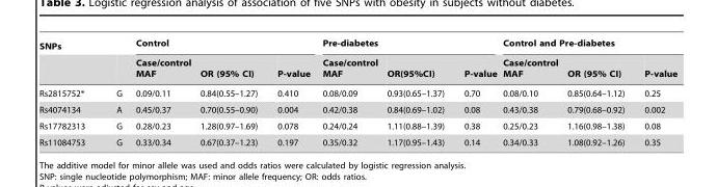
<table><thead><tr><td rowspan="2">SNPs</td><td rowspan="2"></td><td colspan="3">Control</td><td colspan="3">Pre-diabetes</td><td colspan="3">Control and Pre-diabetes</td></tr><tr><td>Case/control MAF</td><td>OR (95% CI)</td><td>P-value</td><td>Case/control MAF</td><td>OR(95%CI)</td><td>P-value</td><td>Case/control MAF</td><td>OR (95% CI)</td><td>P-value</td></tr></thead><tbody><tr><td>Rs2815752*</td><td>G</td><td>0.09/0.11</td><td>0.84(0.55–1.27)</td><td>0.410</td><td>0.08/0.09</td><td>0.93(0.65–1.37)</td><td>0.70</td><td>0.08/0.10</td><td>0.85(0.64–1.12)</td><td>0.25</td></tr><tr><td>Rs4074134</td><td>A</td><td>0.45/0.37</td><td>0.70(0.55–0.90)</td><td>0.004</td><td>0.42/0.38</td><td>0.84(0.69–1.02)</td><td>0.08</td><td>0.43/0.38</td><td>0.79(0.68–0.92)</td><td>0.002</td></tr><tr><td>Rs17782313</td><td>G</td><td>0.28/0.23</td><td>1.28(0.97–1.69)</td><td>0.078</td><td>0.24/0.24</td><td>1.11(0.88–1.39)</td><td>0.38</td><td>0.25/0.23</td><td>1.16(0.98–1.38)</td><td>0.08</td></tr><tr><td>Rs11084753</td><td>G</td><td>0.33/0.34</td><td>0.67(0.37–1.23)</td><td>0.197</td><td>0.35/0.32</td><td>1.17(0.95–1.43)</td><td>0.14</td><td>0.34/0.33</td><td>1.08(0.92–1.26)</td><td>0.35</td></tr></tbody></table>